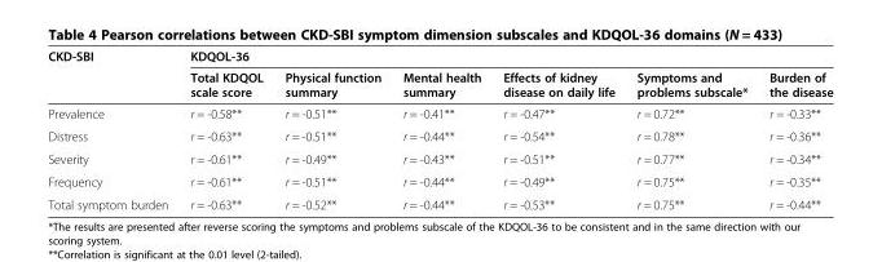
<table><thead><tr><td rowspan="2">CKD-SBI</td><td colspan="6">KDQOL-36</td></tr><tr><td>Total KDQOL scale score</td><td>Physical function summary</td><td>Mental health summary</td><td>Effects of kidney disease on daily life</td><td>Symptoms and problems subscale*</td><td>Burden of the disease</td></tr></thead><tbody><tr><td>Prevalence</td><td>r = -0.58**</td><td>r = -0.51**</td><td>r = -0.41**</td><td>r = -0.47**</td><td>r = 0.72**</td><td>r = -0.33**</td></tr><tr><td>Distress</td><td>r = -0.63**</td><td>r = -0.51**</td><td>r = -0.44**</td><td>r = -0.54**</td><td>r = 0.78**</td><td>r = -0.36**</td></tr><tr><td>Severity</td><td>r = -0.61**</td><td>r = -0.49**</td><td>r = -0.43**</td><td>r = -0.51**</td><td>r = 0.77**</td><td>r = -0.34**</td></tr><tr><td>Frequency</td><td>r = -0.61**</td><td>r = -0.51**</td><td>r = -0.44**</td><td>r = -0.49**</td><td>r = 0.75**</td><td>r = -0.35**</td></tr><tr><td>Total symptom burden</td><td>r = -0.63**</td><td>r = -0.52**</td><td>r = -0.44**</td><td>r = -0.53**</td><td>r = 0.75**</td><td>r = -0.44**</td></tr></tbody></table>